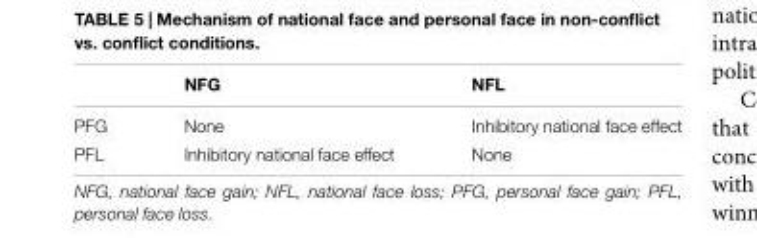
<table><thead><tr><td></td><td>NFG</td><td>NFL</td></tr></thead><tbody><tr><td>PFG</td><td>None</td><td>Inhibitory national face effect</td></tr><tr><td>PFL</td><td>Inhibitory national face effect</td><td>None</td></tr></tbody></table>